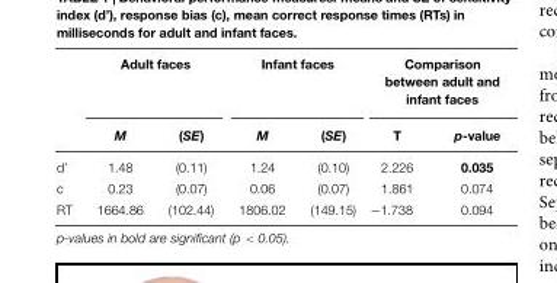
<table><thead><tr><td rowspan="2"></td><td colspan="2">Adult faces</td><td colspan="2">Infant faces</td><td colspan="2">Comparison between adult and infant faces</td></tr><tr><td>M</td><td>(SE)</td><td>M</td><td>(SE)</td><td>T</td><td>p-value</td></tr></thead><tbody><tr><td>d’</td><td>1.48</td><td>(0.11)</td><td>1.24</td><td>(0.10)</td><td>2.226</td><td>0.035</td></tr><tr><td>c</td><td>0.23</td><td>(0.07)</td><td>0.06</td><td>(0.07)</td><td>1.861</td><td>0.074</td></tr><tr><td>RT</td><td>1664.86</td><td>(102.44)</td><td>1806.02</td><td>(149.15)</td><td>−1.738</td><td>0.094</td></tr></tbody></table>